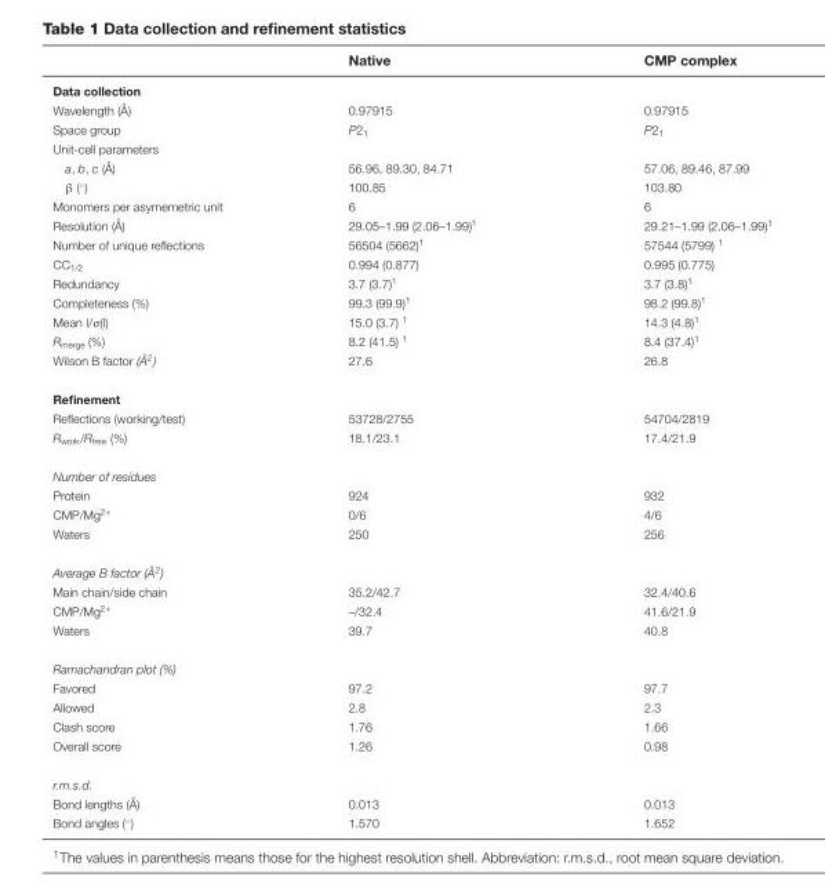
<table><thead><tr><td></td><td>Native</td><td>CMP complex</td></tr></thead><tbody><tr><td colspan="3">Data collection</td></tr><tr><td>Wavelength ( ˚A)</td><td>0.97915</td><td>0.97915</td></tr><tr><td>Space group</td><td>P2<sub>1</sub></td><td>P2<sub>1</sub></td></tr><tr><td colspan="3">Unit-cell parameters</td></tr><tr><td>a, b, c ( ˚A)</td><td>56.96, 89.30, 84.71</td><td>57.06, 89.46, 87.99</td></tr><tr><td>β (◦)</td><td>100.85</td><td>103.80</td></tr><tr><td>Monomers per asymemetric unit</td><td>6</td><td>6</td></tr><tr><td>Resolution ( ˚A)</td><td>29.05–1.99 (2.06–1.99)<sup>1</sup></td><td>29.21–1.99 (2.06–1.99)<sup>1</sup></td></tr><tr><td>Number of unique reflections</td><td>56504 (5662)<sup>1</sup></td><td>57544 (5799) <sup>1</sup></td></tr><tr><td>CC<sub>1/2</sub></td><td>0.994 (0.877)</td><td>0.995 (0.775)</td></tr><tr><td>Redundancy</td><td>3.7 (3.7)<sup>1</sup></td><td>3.7 (3.8)<sup>1</sup></td></tr><tr><td>Completeness (%)</td><td>99.3 (99.9)<sup>1</sup></td><td>98.2 (99.8)<sup>1</sup></td></tr><tr><td>Mean I/σ(I)</td><td>15.0 (3.7) <sup>1</sup></td><td>14.3 (4.8)<sup>1</sup></td></tr><tr><td>R<sub>merge</sub> (%)</td><td>8.2 (41.5) <sup>1</sup></td><td>8.4 (37.4)<sup>1</sup></td></tr><tr><td>Wilson B factor ( ˚A2)</td><td>27.6</td><td>26.8</td></tr><tr><td colspan="3">Refinement</td></tr><tr><td>Reflections (working/test)</td><td>53728/2755</td><td>54704/2819</td></tr><tr><td>R<sub>work</sub>/R<sub>free</sub> (%)</td><td>18.1/23.1</td><td>17.4/21.9</td></tr><tr><td colspan="3">Number of residues</td></tr><tr><td>Protein</td><td>924</td><td>932</td></tr><tr><td>CMP/Mg<sup>2+</sup></td><td>0/6</td><td>4/6</td></tr><tr><td>Waters</td><td>250</td><td>256</td></tr><tr><td colspan="3">Average B factor ( ˚A2)</td></tr><tr><td>Main chain/side chain</td><td>35.2/42.7</td><td>32.4/40.6</td></tr><tr><td>CMP/Mg<sup>2+</sup></td><td>–/32.4</td><td>41.6/21.9</td></tr><tr><td>Waters</td><td>39.7</td><td>40.8</td></tr><tr><td colspan="3">Ramachandran plot (%)</td></tr><tr><td>Favored</td><td>97.2</td><td>97.7</td></tr><tr><td>Allowed</td><td>2.8</td><td>2.3</td></tr><tr><td>Clash score</td><td>1.76</td><td>1.66</td></tr><tr><td>Overall score</td><td>1.26</td><td>0.98</td></tr><tr><td colspan="3">r.m.s.d.</td></tr><tr><td>Bond lengths ( ˚A)</td><td>0.013</td><td>0.013</td></tr><tr><td>Bond angles (◦)</td><td>1.570</td><td>1.652</td></tr></tbody></table>